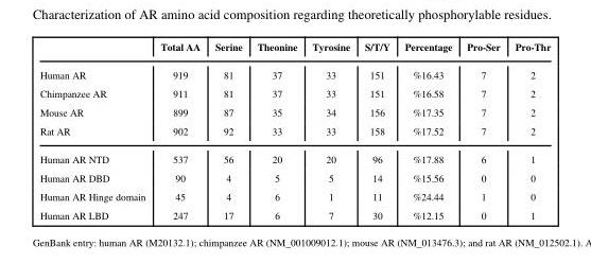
<table><thead><tr><td></td><td>Total AA</td><td>Serine</td><td>Theonine</td><td>Tyrosine</td><td>S/T/Y</td><td>Percentage</td><td>Pro-Ser</td><td>Pro-Thr</td></tr></thead><tbody><tr><td>Human AR</td><td>919</td><td>81</td><td>37</td><td>33</td><td>151</td><td>%16.43</td><td>7</td><td>2</td></tr><tr><td>Chimpanzee AR</td><td>911</td><td>81</td><td>37</td><td>33</td><td>151</td><td>%16.58</td><td>7</td><td>2</td></tr><tr><td>Mouse AR</td><td>899</td><td>87</td><td>35</td><td>34</td><td>156</td><td>%17.35</td><td>7</td><td>2</td></tr><tr><td>Rat AR</td><td>902</td><td>92</td><td>33</td><td>33</td><td>158</td><td>%17.52</td><td>7</td><td>2</td></tr><tr><td>Human AR NTD</td><td>537</td><td>56</td><td>20</td><td>20</td><td>96</td><td>%17.88</td><td>6</td><td>1</td></tr><tr><td>Human AR DBD</td><td>90</td><td>4</td><td>5</td><td>5</td><td>14</td><td>%15.56</td><td>0</td><td>0</td></tr><tr><td>Human AR Hinge domain</td><td>45</td><td>4</td><td>6</td><td>1</td><td>11</td><td>%24.44</td><td>1</td><td>0</td></tr><tr><td>Human AR LBD</td><td>247</td><td>17</td><td>6</td><td>7</td><td>30</td><td>%12.15</td><td>0</td><td>1</td></tr></tbody></table>